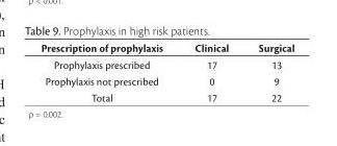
<table><thead><tr><td>Prescription of prophylaxis</td><td>Clinical</td><td>Surgical</td></tr></thead><tbody><tr><td>Prophylaxis prescribed</td><td>17</td><td>13</td></tr><tr><td>Prophylaxis not prescribed</td><td>0</td><td>9</td></tr><tr><td>Total</td><td>17</td><td>22</td></tr></tbody></table>